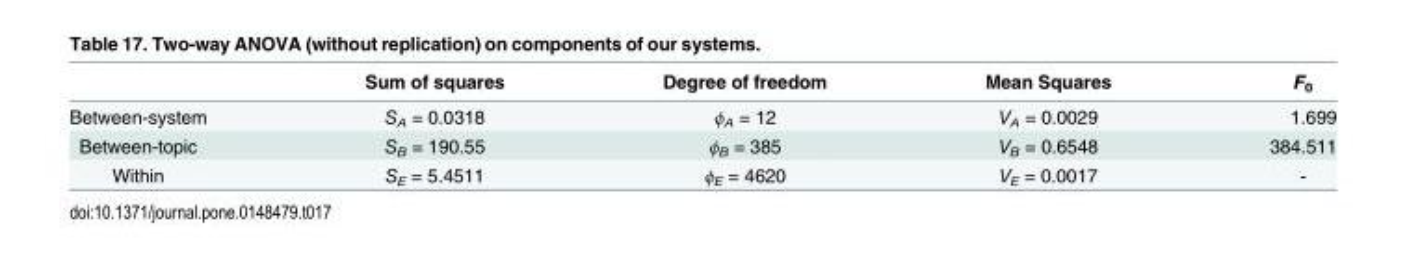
<table><thead><tr><td></td><td>Sum of squares</td><td>Degree of freedom</td><td>Mean Squares</td><td>F<sub>0</sub></td></tr></thead><tbody><tr><td>Between-system</td><td>S<sub>A</sub> = 0.0318</td><td>ϕ<sub>A</sub> = 12</td><td>V<sub>A</sub> = 0.0029</td><td>1.699</td></tr><tr><td>Between-topic</td><td>S<sub>B</sub> = 190.55</td><td>ϕ<sub>B</sub> = 385</td><td>V<sub>B</sub> = 0.6548</td><td>384.511</td></tr><tr><td>Within</td><td>S<sub>E</sub> = 5.4511</td><td>ϕ<sub>E</sub> = 4620</td><td>V<sub>E</sub> = 0.0017</td><td>-</td></tr></tbody></table>